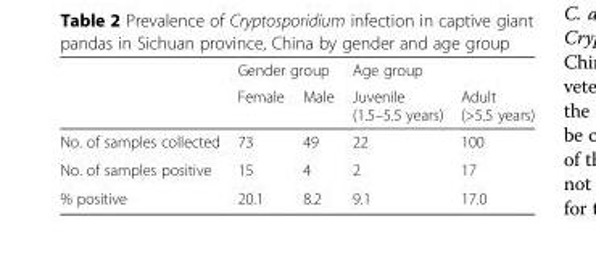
<table><thead><tr><td rowspan="2"></td><td colspan="2">Gender group</td><td colspan="2">Age group</td></tr><tr><td>Female</td><td>Male</td><td>Juvenile (1.5–5.5 years)</td><td>Adult (&gt;5.5 years)</td></tr></thead><tbody><tr><td>No. of samples collected</td><td>73</td><td>49</td><td>22</td><td>100</td></tr><tr><td>No. of samples positive</td><td>15</td><td>4</td><td>2</td><td>17</td></tr><tr><td>% positive</td><td>20.1</td><td>8.2</td><td>9.1</td><td>17.0</td></tr></tbody></table>